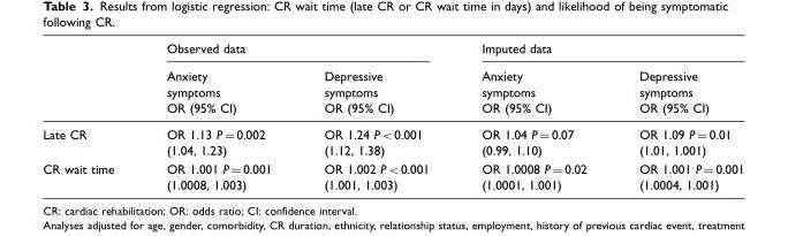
<table><thead><tr><td rowspan="2"></td><td colspan="2">Observed data</td><td colspan="2">Imputed data</td></tr><tr><td>Anxiety symptoms OR (95% CI)</td><td>Depressive symptoms OR (95% CI)</td><td>Anxiety symptoms OR (95% CI)</td><td>Depressive symptoms OR (95% CI)</td></tr></thead><tbody><tr><td>Late CR</td><td>OR 1.13 P = 0.002 (1.04, 1.23)</td><td>OR 1.24 P &lt; 0.001 (1.12, 1.38)</td><td>OR 1.04 P = 0.07 (0.99, 1.10)</td><td>OR 1.09 P = 0.01 (1.01, 1.001)</td></tr><tr><td>CR wait time</td><td>OR 1.001 P = 0.001 (1.0008, 1.003)</td><td>OR 1.002 P &lt; 0.001 (1.001, 1.003)</td><td>OR 1.0008 P = 0.02 (1.0001, 1.001)</td><td>OR 1.001 P = 0.001 (1.0004, 1.001)</td></tr></tbody></table>